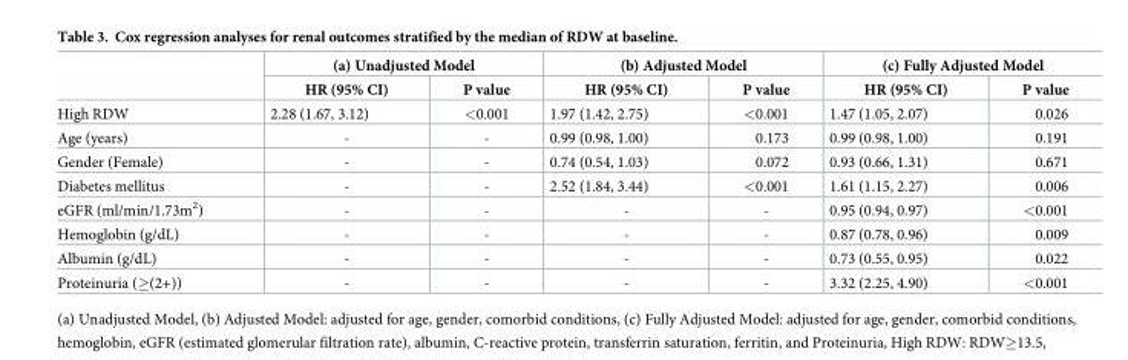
<table><thead><tr><td rowspan="2"></td><td colspan="2">(a) Unadjusted Model</td><td colspan="2">(b) Adjusted Model</td><td colspan="2">(c) Fully Adjusted Model</td></tr><tr><td>HR (95% CI)</td><td>P value</td><td>HR (95% CI)</td><td>P value</td><td>HR (95% CI)</td><td>P value</td></tr></thead><tbody><tr><td>High RDW</td><td>2.28 (1.67, 3.12)</td><td>&lt;0.001</td><td>1.97 (1.42, 2.75)</td><td>&lt;0.001</td><td>1.47 (1.05, 2.07)</td><td>0.026</td></tr><tr><td>Age (years)</td><td>-</td><td>-</td><td>0.99 (0.98, 1.00)</td><td>0.173</td><td>0.99 (0.98, 1.00)</td><td>0.191</td></tr><tr><td>Gender (Female)</td><td>-</td><td>-</td><td>0.74 (0.54, 1.03)</td><td>0.072</td><td>0.93 (0.66, 1.31)</td><td>0.671</td></tr><tr><td>Diabetes mellitus</td><td>-</td><td>-</td><td>2.52 (1.84, 3.44)</td><td>&lt;0.001</td><td>1.61 (1.15, 2.27)</td><td>0.006</td></tr><tr><td>eGFR (ml/min/1.73m<sup>2</sup>)</td><td>-</td><td>-</td><td>-</td><td>-</td><td>0.95 (0.94, 0.97)</td><td>&lt;0.001</td></tr><tr><td>Hemoglobin (g/dL)</td><td>-</td><td>-</td><td>-</td><td>-</td><td>0.87 (0.78, 0.96)</td><td>0.009</td></tr><tr><td>Albumin (g/dL)</td><td>-</td><td>-</td><td>-</td><td>-</td><td>0.73 (0.55, 0.95)</td><td>0.022</td></tr><tr><td>Proteinuria (≥(2+))</td><td>-</td><td>-</td><td>-</td><td>-</td><td>3.32 (2.25, 4.90)</td><td>&lt;0.001</td></tr></tbody></table>